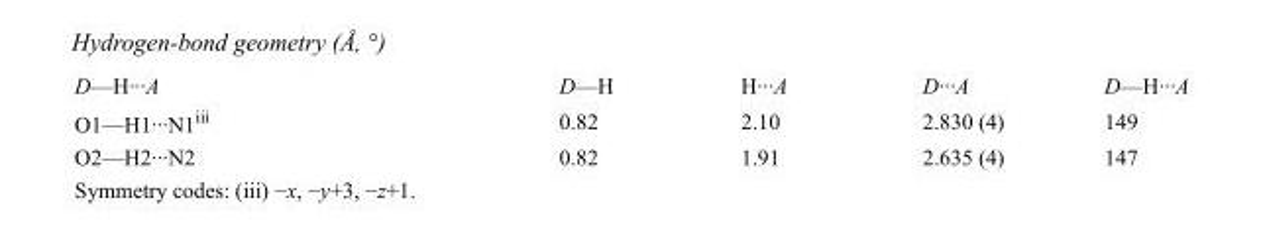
<table><tbody><tr><td>D—H···A</td><td>D—H</td><td>H···A</td><td>D···A</td><td>D—H···A</td></tr><tr><td>O1—H1···N1<sup>iii</sup></td><td>0.82</td><td>2.10</td><td>2.830 (4)</td><td>149</td></tr><tr><td>O2—H2···N2</td><td>0.82</td><td>1.91</td><td>2.635 (4)</td><td>147</td></tr></tbody></table>